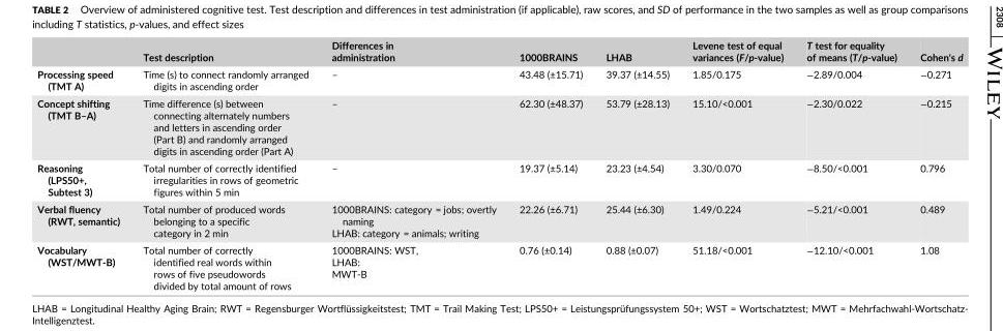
<table><thead><tr><td></td><td>Test description</td><td>Differences in administration</td><td>1000BRAINS</td><td>LHAB</td><td>Levene test of equal variances (F/p-value)</td><td>T test for equality of means (T/p-value)</td><td>Cohen&#x27;s d</td></tr></thead><tbody><tr><td>Processing speed (TMT A)</td><td>Time (s) to connect randomly arranged digits in ascending order</td><td>–</td><td>43.48 (±15.71)</td><td>39.37 (±14.55)</td><td>1.85/0.175</td><td>−2.89/0.004</td><td>−0.271</td></tr><tr><td>Concept shifting (TMT B–A)</td><td>Time difference (s) between connecting alternately numbers and letters in ascending order (Part B) and randomly arranged digits in ascending order (Part A)</td><td>–</td><td>62.30 (±48.37)</td><td>53.79 (±28.13)</td><td>15.10/&lt;0.001</td><td>−2.30/0.022</td><td>−0.215</td></tr><tr><td>Reasoning (LPS50+, Subtest 3)</td><td>Total number of correctly identified irregularities in rows of geometric figures within 5 min</td><td>–</td><td>19.37 (±5.14)</td><td>23.23 (±4.54)</td><td>3.30/0.070</td><td>−8.50/&lt;0.001</td><td>0.796</td></tr><tr><td>Verbal fluency (RWT, semantic)</td><td>Total number of produced words belonging to a specific category in 2 min</td><td>1000BRAINS: category = jobs; overtly naming LHAB: category = animals; writing</td><td>22.26 (±6.71)</td><td>25.44 (±6.30)</td><td>1.49/0.224</td><td>−5.21/&lt;0.001</td><td>0.489</td></tr><tr><td>Vocabulary (WST/MWT-B)</td><td>Total number of correctly identified real words within rows of five pseudowords divided by total amount of rows</td><td>1000BRAINS: WST, LHAB: MWT-B</td><td>0.76 (±0.14)</td><td>0.88 (±0.07)</td><td>51.18/&lt;0.001</td><td>−12.10/&lt;0.001</td><td>1.08</td></tr></tbody></table>